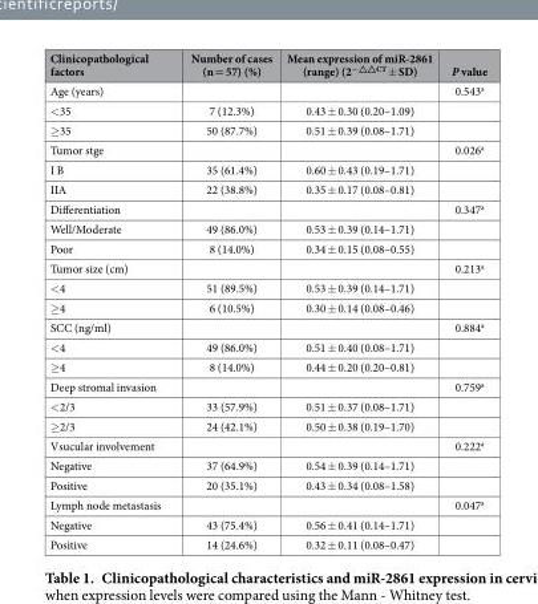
<table><thead><tr><td>Clinicopathological factors</td><td>Number of cases (n = 57) (%)</td><td>Mean expression of miR-2861 (range) (2<sup>−△△CT</sup> ± SD)</td><td>P value</td></tr></thead><tbody><tr><td>Age (years)</td><td></td><td></td><td>0.543<sup>a</sup></td></tr><tr><td>&lt; 35</td><td>7 (12.3%)</td><td>0.43 ± 0.30 (0.20–1.09)</td><td></td></tr><tr><td>≥ 35</td><td>50 (87.7%)</td><td>0.51 ± 0.39 (0.08–1.71)</td><td></td></tr><tr><td>Tumor stge</td><td></td><td></td><td>0.026<sup>a</sup></td></tr><tr><td>I B</td><td>35 (61.4%)</td><td>0.60 ± 0.43 (0.19–1.71)</td><td></td></tr><tr><td>IIA</td><td>22 (38.8%)</td><td>0.35 ± 0.17 (0.08–0.81)</td><td></td></tr><tr><td>Differentiation</td><td></td><td></td><td>0.347<sup>a</sup></td></tr><tr><td>Well/Moderate</td><td>49 (86.0%)</td><td>0.53 ± 0.39 (0.14–1.71)</td><td></td></tr><tr><td>Poor</td><td>8 (14.0%)</td><td>0.34 ± 0.15 (0.08–0.55)</td><td></td></tr><tr><td>Tumor size (cm)</td><td></td><td></td><td>0.213<sup>a</sup></td></tr><tr><td>&lt; 4</td><td>51 (89.5%)</td><td>0.53 ± 0.39 (0.14–1.71)</td><td></td></tr><tr><td>≥ 4</td><td>6 (10.5%)</td><td>0.30 ± 0.14 (0.08–0.46)</td><td></td></tr><tr><td>SCC (ng/ml)</td><td></td><td></td><td>0.884<sup>a</sup></td></tr><tr><td>&lt; 4</td><td>49 (86.0%)</td><td>0.51 ± 0.40 (0.08–1.71)</td><td></td></tr><tr><td>≥ 4</td><td>8 (14.0%)</td><td>0.44 ± 0.20 (0.20–0.81)</td><td></td></tr><tr><td>Deep stromal invasion</td><td></td><td></td><td>0.759<sup>a</sup></td></tr><tr><td>&lt; 2/3</td><td>33 (57.9%)</td><td>0.51 ± 0.37 (0.08–1.71)</td><td></td></tr><tr><td>≥ 2/3</td><td>24 (42.1%)</td><td>0.50 ± 0.38 (0.19–1.70)</td><td></td></tr><tr><td>Vsucular involvement</td><td></td><td></td><td>0.222<sup>a</sup></td></tr><tr><td>Negative</td><td>37 (64.9%)</td><td>0.54 ± 0.39 (0.14–1.71)</td><td></td></tr><tr><td>Positive</td><td>20 (35.1%)</td><td>0.43 ± 0.34 (0.08–1.58)</td><td></td></tr><tr><td>Lymph node metastasis</td><td></td><td></td><td>0.047<sup>a</sup></td></tr><tr><td>Negative</td><td>43 (75.4%)</td><td>0.56 ± 0.41 (0.14–1.71)</td><td></td></tr><tr><td>Positive</td><td>14 (24.6%)</td><td>0.32 ± 0.11 (0.08–0.47)</td><td></td></tr></tbody></table>